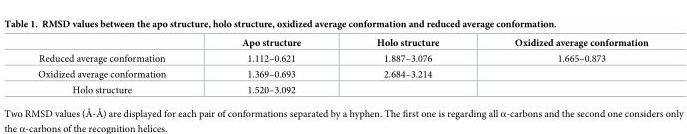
<table><thead><tr><td></td><td>Apo structure</td><td>Holo structure</td><td>Oxidized average conformation</td></tr></thead><tbody><tr><td>Reduced average conformation</td><td>1.112–0.621</td><td>1.887–3.076</td><td>1.665–0.873</td></tr><tr><td>Oxidized average conformation</td><td>1.369–0.693</td><td>2.684–3.214</td><td></td></tr><tr><td>Holo structure</td><td>1.520–3.092</td><td></td><td></td></tr></tbody></table>